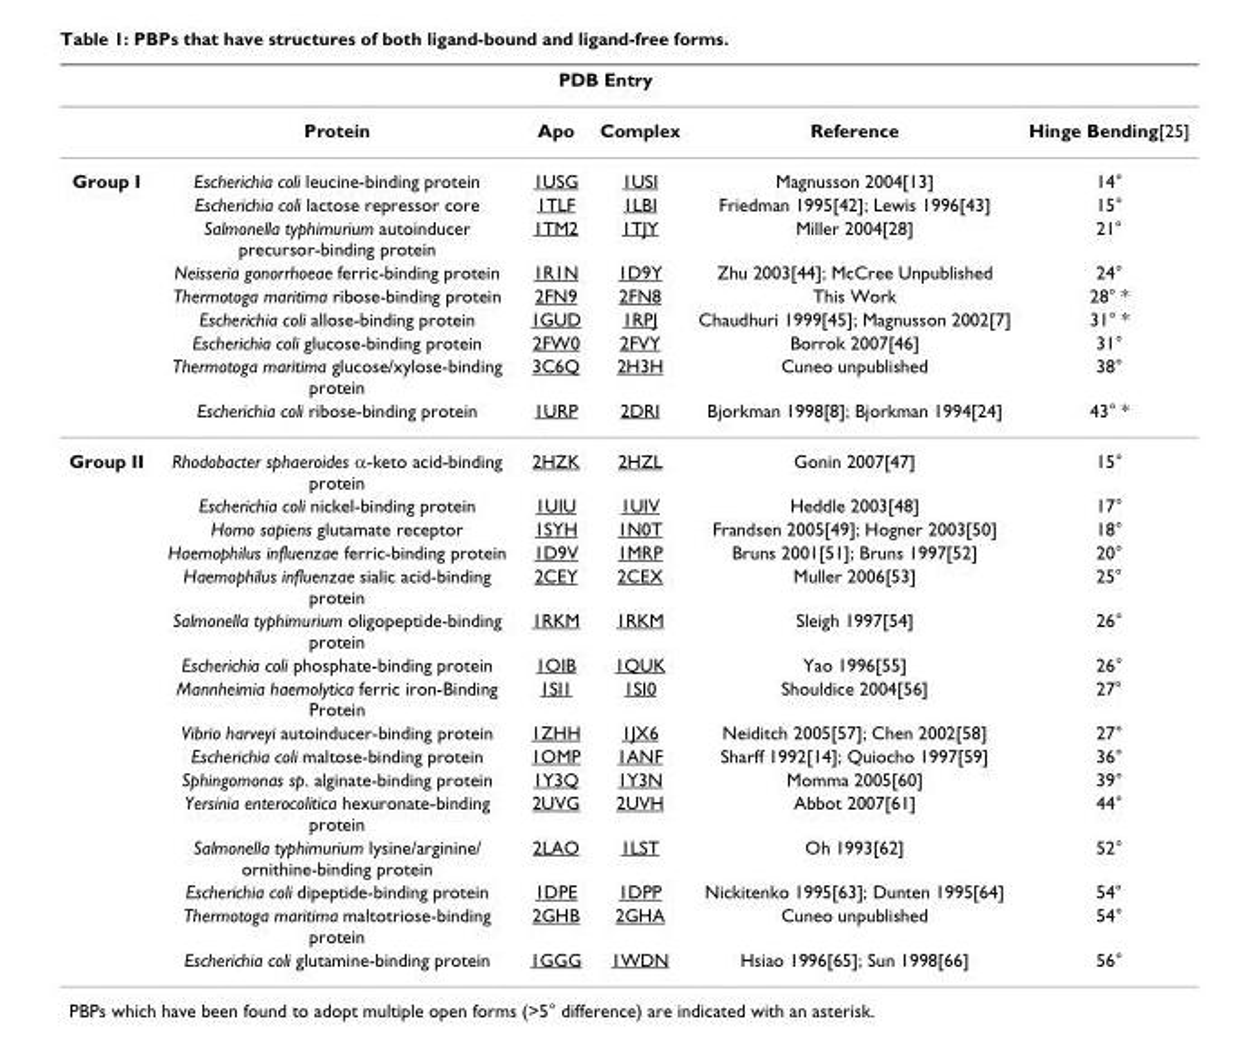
<table><thead><tr><td rowspan="2"></td><td rowspan="2">Protein</td><td colspan="2">PDB Entry</td><td rowspan="2">Reference</td><td rowspan="2">Hinge Bending[25]</td></tr><tr><td>Apo</td><td>Complex</td></tr></thead><tbody><tr><td rowspan="9">Group I</td><td>Escherichia coli leucine-binding protein</td><td>1USG</td><td>1USI</td><td>Magnusson 2004[13]</td><td>14°</td></tr><tr><td>Escherichia coli lactose repressor core</td><td>1TLF</td><td>1LBI</td><td>Friedman 1995[42]; Lewis 1996[43]</td><td>15°</td></tr><tr><td>Salmonella typhimurium autoinducer precursor-binding protein</td><td>1TM2</td><td>1TJY</td><td>Miller 2004[28]</td><td>21°</td></tr><tr><td>Neisseria gonorrhoeae ferric-binding protein</td><td>1R1N</td><td>1D9Y</td><td>Zhu 2003[44]; McCree Unpublished</td><td>24°</td></tr><tr><td>Thermotoga maritima ribose-binding protein</td><td>2FN9</td><td>2FN8</td><td>This Work</td><td>28° *</td></tr><tr><td>Escherichia coli allose-binding protein</td><td>1GUD</td><td>1RPJ</td><td>Chaudhuri 1999[45]; Magnusson 2002[7]</td><td>31° *</td></tr><tr><td>Escherichia coli glucose-binding protein</td><td>2FW0</td><td>2FVY</td><td>Borrok 2007[46]</td><td>31°</td></tr><tr><td>Thermotoga maritima glucose/xylose-binding protein</td><td>3C6Q</td><td>2H3H</td><td>Cuneo unpublished</td><td>38°</td></tr><tr><td>Escherichia coli ribose-binding protein</td><td>1URP</td><td>2DRI</td><td>Bjorkman 1998[8]; Bjorkman 1994[24]</td><td>43° *</td></tr><tr><td rowspan="16">Group II</td><td>Rhodobacter sphaeroides α-keto acid-binding protein</td><td>2HZK</td><td>2HZL</td><td>Gonin 2007[47]</td><td>15°</td></tr><tr><td>Escherichia coli nickel-binding protein</td><td>1UIU</td><td>1UIV</td><td>Heddle 2003[48]</td><td>17°</td></tr><tr><td>Homo sapiens glutamate receptor</td><td>1SYH</td><td>1N0T</td><td>Frandsen 2005[49]; Hogner 2003[50]</td><td>18°</td></tr><tr><td>Haemophilus influenzae ferric-binding protein</td><td>1D9V</td><td>1MRP</td><td>Bruns 2001[51]; Bruns 1997[52]</td><td>20°</td></tr><tr><td>Haemophilus influenzae sialic acid-binding protein</td><td>2CEY</td><td>2CEX</td><td>Muller 2006[53]</td><td>25°</td></tr><tr><td>Salmonella typhimurium oligopeptide-binding protein</td><td>1RKM</td><td>1RKM</td><td>Sleigh 1997[54]</td><td>26°</td></tr><tr><td>Escherichia coli phosphate-binding protein</td><td>1OIB</td><td>1QUK</td><td>Yao 1996[55]</td><td>26°</td></tr><tr><td>Mannheimia haemolytica ferric iron-Binding Protein</td><td>1SI1</td><td>1SI0</td><td>Shouldice 2004[56]</td><td>27°</td></tr><tr><td>Vibrio harveyi autoinducer-binding protein</td><td>1ZHH</td><td>1JX6</td><td>Neiditch 2005[57]; Chen 2002[58]</td><td>27°</td></tr><tr><td>Escherichia coli maltose-binding protein</td><td>1OMP</td><td>1ANF</td><td>Sharff 1992[14]; Quiocho 1997[59]</td><td>36°</td></tr><tr><td>Sphingomonas sp. alginate-binding protein</td><td>1Y3Q</td><td>1Y3N</td><td>Momma 2005[60]</td><td>39°</td></tr><tr><td>Yersinia enterocolitica hexuronate-binding protein</td><td>2UVG</td><td>2UVH</td><td>Abbot 2007[61]</td><td>44°</td></tr><tr><td>Salmonella typhimurium lysine/arginine/ ornithine-binding protein</td><td>2LAO</td><td>1LST</td><td>Oh 1993[62]</td><td>52°</td></tr><tr><td>Escherichia coli dipeptide-binding protein</td><td>1DPE</td><td>1DPP</td><td>Nickitenko 1995[63]; Dunten 1995[64]</td><td>54°</td></tr><tr><td>Thermotoga maritima maltotriose-binding protein</td><td>2GHB</td><td>2GHA</td><td>Cuneo unpublished</td><td>54°</td></tr><tr><td>Escherichia coli glutamine-binding protein</td><td>1GGG</td><td>1WDN</td><td>Hsiao 1996[65]; Sun 1998[66]</td><td>56°</td></tr></tbody></table>